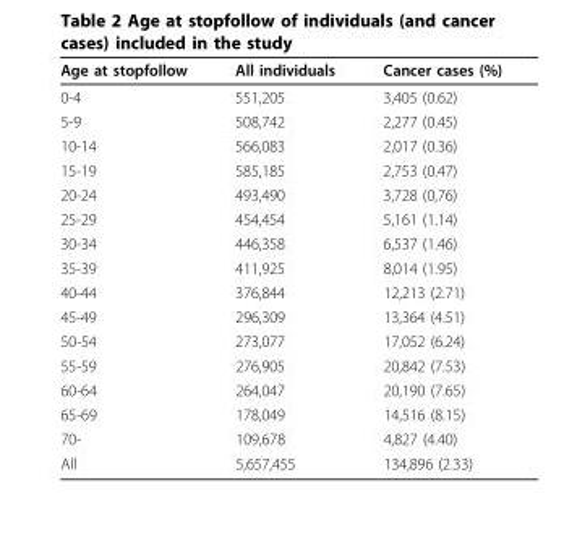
<table><thead><tr><td>Age at stopfollow</td><td>All individuals</td><td>Cancer cases (%)</td></tr></thead><tbody><tr><td>0-4</td><td>551,205</td><td>3,405 (0.62)</td></tr><tr><td>5-9</td><td>508,742</td><td>2,277 (0.45)</td></tr><tr><td>10-14</td><td>566,083</td><td>2,017 (0.36)</td></tr><tr><td>15-19</td><td>585,185</td><td>2,753 (0.47)</td></tr><tr><td>20-24</td><td>493,490</td><td>3,728 (0,76)</td></tr><tr><td>25-29</td><td>454,454</td><td>5,161 (1.14)</td></tr><tr><td>30-34</td><td>446,358</td><td>6,537 (1.46)</td></tr><tr><td>35-39</td><td>411,925</td><td>8,014 (1.95)</td></tr><tr><td>40-44</td><td>376,844</td><td>12,213 (2.71)</td></tr><tr><td>45-49</td><td>296,309</td><td>13,364 (4.51)</td></tr><tr><td>50-54</td><td>273,077</td><td>17,052 (6.24)</td></tr><tr><td>55-59</td><td>276,905</td><td>20,842 (7.53)</td></tr><tr><td>60-64</td><td>264,047</td><td>20,190 (7.65)</td></tr><tr><td>65-69</td><td>178,049</td><td>14,516 (8.15)</td></tr><tr><td>70-</td><td>109,678</td><td>4,827 (4.40)</td></tr><tr><td>All</td><td>5,657,455</td><td>134,896 (2.33)</td></tr></tbody></table>